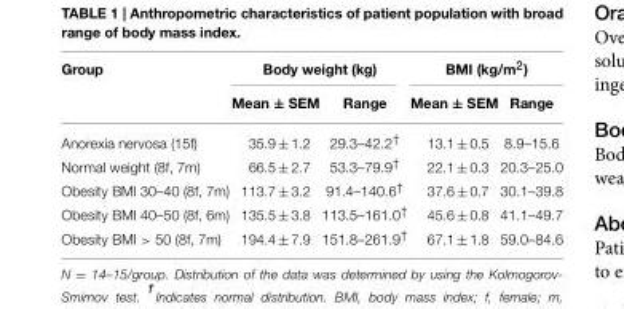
<table><thead><tr><td rowspan="2">Group</td><td colspan="2">Body weight (kg)</td><td colspan="2">BMI (kg/m<sup>2</sup>)</td></tr><tr><td>Mean ± SEM</td><td>Range</td><td>Mean ± SEM</td><td>Range</td></tr></thead><tbody><tr><td>Anorexia nervosa (15f)</td><td>35.9 ± 1.2</td><td>29.3–42.2<sup>†</sup></td><td>13.1 ± 0.5</td><td>8.9–15.6</td></tr><tr><td>Normal weight (8f, 7m)</td><td>66.5 ± 2.7</td><td>53.3–79.9<sup>†</sup></td><td>22.1 ± 0.3</td><td>20.3–25.0</td></tr><tr><td>Obesity BMI 30–40 (8f, 7m)</td><td>113.7 ± 3.2</td><td>91.4–140.6<sup>†</sup></td><td>37.6 ± 0.7</td><td>30.1–39.8</td></tr><tr><td>Obesity BMI 40–50 (8f, 6m)</td><td>135.5 ± 3.8</td><td>113.5–161.0<sup>†</sup></td><td>45.6 ± 0.8</td><td>41.1–49.7</td></tr><tr><td>Obesity BMI &gt; 50 (8f, 7m)</td><td>194.4 ± 7.9</td><td>151.8–261.9<sup>†</sup></td><td>67.1 ± 1.8</td><td>59.0–84.6</td></tr></tbody></table>